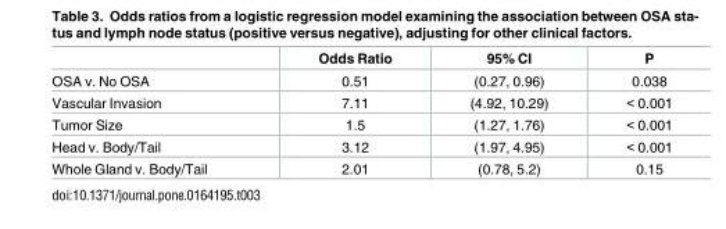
<table><thead><tr><td></td><td>Odds Ratio</td><td>95% CI</td><td>P</td></tr></thead><tbody><tr><td>OSA v. No OSA</td><td>0.51</td><td>(0.27, 0.96)</td><td>0.038</td></tr><tr><td>Vascular Invasion</td><td>7.11</td><td>(4.92, 10.29)</td><td>&lt; 0.001</td></tr><tr><td>Tumor Size</td><td>1.5</td><td>(1.27, 1.76)</td><td>&lt; 0.001</td></tr><tr><td>Head v. Body/Tail</td><td>3.12</td><td>(1.97, 4.95)</td><td>&lt; 0.001</td></tr><tr><td>Whole Gland v. Body/Tail</td><td>2.01</td><td>(0.78, 5.2)</td><td>0.15</td></tr></tbody></table>